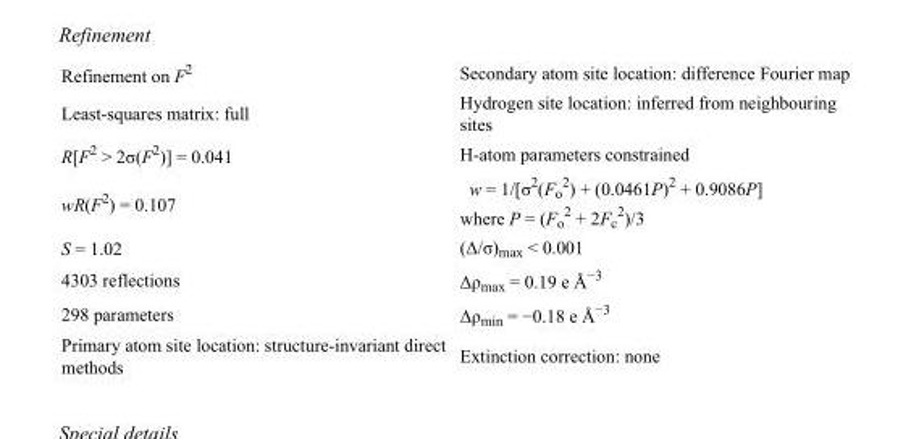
<table><tbody><tr><td>Refinement on F<sup>2</sup></td><td>Secondary atom site location: difference Fourier map</td></tr><tr><td>Least-squares matrix: full</td><td>Hydrogen site location: inferred from neighbouring sites</td></tr><tr><td>R[F<sup>2</sup> &gt; 2σ(F<sup>2</sup>)] = 0.041</td><td>H-atom parameters constrained</td></tr><tr><td>wR(F<sup>2</sup>) = 0.107</td><td>w = 1/[σ<sup>2</sup>(F<sub>o</sub> <sup>2</sup>) + (0.0461P)<sup>2</sup> + 0.9086P] where P = (F<sub>o</sub> <sup>2</sup> + 2F<sub>c</sub> <sup>2</sup>)/3</td></tr><tr><td>S = 1.02</td><td>(Δ/σ)<sub>max</sub> &lt; 0.001</td></tr><tr><td>4303 reflections</td><td>Δρ<sub>max</sub> = 0.19 e Å<sup>−3</sup></td></tr><tr><td>298 parameters</td><td>Δρ<sub>min</sub> = −0.18 e Å<sup>−3</sup></td></tr><tr><td>Primary atom site location: structure-invariant direct methods</td><td>Extinction correction: none</td></tr></tbody></table>